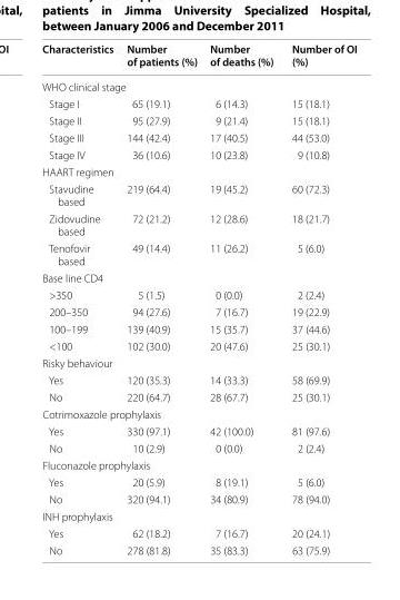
<table><thead><tr><td>Characteristics</td><td>Number of patients (%)</td><td>Number of deaths (%)</td><td>Number of OI (%)</td></tr></thead><tbody><tr><td colspan="4">WHO clinical stage</td></tr><tr><td>Stage I</td><td>65 (19.1)</td><td>6 (14.3)</td><td>15 (18.1)</td></tr><tr><td>Stage II</td><td>95 (27.9)</td><td>9 (21.4)</td><td>15 (18.1)</td></tr><tr><td>Stage III</td><td>144 (42.4)</td><td>17 (40.5)</td><td>44 (53.0)</td></tr><tr><td>Stage IV</td><td>36 (10.6)</td><td>10 (23.8)</td><td>9 (10.8)</td></tr><tr><td colspan="4">HAART regimen</td></tr><tr><td>Stavudine based</td><td>219 (64.4)</td><td>19 (45.2)</td><td>60 (72.3)</td></tr><tr><td>Zidovudine based</td><td>72 (21.2)</td><td>12 (28.6)</td><td>18 (21.7)</td></tr><tr><td>Tenofovir based</td><td>49 (14.4)</td><td>11 (26.2)</td><td>5 (6.0)</td></tr><tr><td colspan="4">Base line CD4</td></tr><tr><td>&gt;350</td><td>5 (1.5)</td><td>0 (0.0)</td><td>2 (2.4)</td></tr><tr><td>200–350</td><td>94 (27.6)</td><td>7 (16.7)</td><td>19 (22.9)</td></tr><tr><td>100–199</td><td>139 (40.9)</td><td>15 (35.7)</td><td>37 (44.6)</td></tr><tr><td>&lt;100</td><td>102 (30.0)</td><td>20 (47.6)</td><td>25 (30.1)</td></tr><tr><td colspan="4">Risky behaviour</td></tr><tr><td>Yes</td><td>120 (35.3)</td><td>14 (33.3)</td><td>58 (69.9)</td></tr><tr><td>No</td><td>220 (64.7)</td><td>28 (67.7)</td><td>25 (30.1)</td></tr><tr><td colspan="4">Cotrimoxazole prophylaxis</td></tr><tr><td>Yes</td><td>330 (97.1)</td><td>42 (100.0)</td><td>81 (97.6)</td></tr><tr><td>No</td><td>10 (2.9)</td><td>0 (0.0)</td><td>2 (2.4)</td></tr><tr><td colspan="4">Fluconazole prophylaxis</td></tr><tr><td>Yes</td><td>20 (5.9)</td><td>8 (19.1)</td><td>5 (6.0)</td></tr><tr><td>No</td><td>320 (94.1)</td><td>34 (80.9)</td><td>78 (94.0)</td></tr><tr><td colspan="4">INH prophylaxis</td></tr><tr><td>Yes</td><td>62 (18.2)</td><td>7 (16.7)</td><td>20 (24.1)</td></tr><tr><td>No</td><td>278 (81.8)</td><td>35 (83.3)</td><td>63 (75.9)</td></tr></tbody></table>